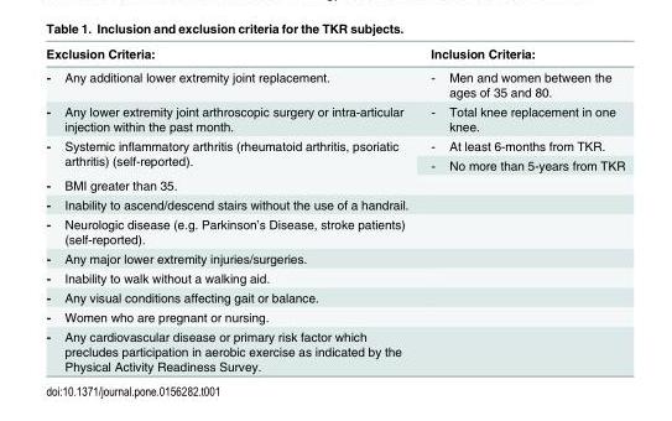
<table><thead><tr><td colspan="2">Exclusion Criteria:</td><td colspan="2">Inclusion Criteria:</td></tr><tr><td>-</td><td>Any additional lower extremity joint replacement.</td><td>-</td><td>Men and women between the ages of 35 and 80.</td></tr></thead><tbody><tr><td>-</td><td>Any lower extremity joint arthroscopic surgery or intra-articular injection within the past month.</td><td>-</td><td>Total knee replacement in one knee.</td></tr><tr><td rowspan="2">-</td><td rowspan="2">Systemic inflammatory arthritis (rheumatoid arthritis, psoriatic arthritis) (self-reported).</td><td>-</td><td>At least 6-months from TKR.</td></tr><tr><td>-</td><td>No more than 5-years from TKR</td></tr><tr><td>-</td><td>BMI greater than 35.</td><td></td><td></td></tr><tr><td>-</td><td>Inability to ascend/descend stairs without the use of a handrail.</td><td></td><td></td></tr><tr><td>-</td><td>Neurologic disease (e.g. Parkinson’s Disease, stroke patients) (self-reported).</td><td></td><td></td></tr><tr><td>-</td><td>Any major lower extremity injuries/surgeries.</td><td></td><td></td></tr><tr><td>-</td><td>Inability to walk without a walking aid.</td><td></td><td></td></tr><tr><td>-</td><td>Any visual conditions affecting gait or balance.</td><td></td><td></td></tr><tr><td>-</td><td>Women who are pregnant or nursing.</td><td></td><td></td></tr><tr><td>-</td><td>Any cardiovascular disease or primary risk factor which precludes participation in aerobic exercise as indicated by the Physical Activity Readiness Survey.</td><td></td><td></td></tr></tbody></table>